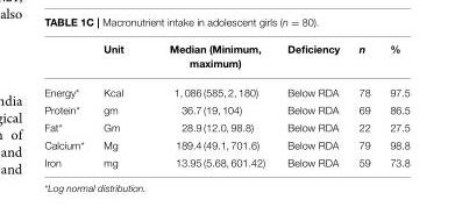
<table><thead><tr><td></td><td>Unit</td><td>Median (Minimum, maximum)</td><td>Deficiency</td><td>n</td><td>%</td></tr></thead><tbody><tr><td>Energy*</td><td>Kcal</td><td>1, 086 (585, 2, 180)</td><td>Below RDA</td><td>78</td><td>97.5</td></tr><tr><td>Protein*</td><td>gm</td><td>36.7 (19, 104)</td><td>Below RDA</td><td>69</td><td>86.5</td></tr><tr><td>Fat*</td><td>Gm</td><td>28.9 (12.0, 98.8)</td><td>Below RDA</td><td>22</td><td>27.5</td></tr><tr><td>Calcium*</td><td>Mg</td><td>189.4 (49.1, 701.6)</td><td>Below RDA</td><td>79</td><td>98.8</td></tr><tr><td>Iron</td><td>mg</td><td>13.95 (5.68, 601.42)</td><td>Below RDA</td><td>59</td><td>73.8</td></tr></tbody></table>